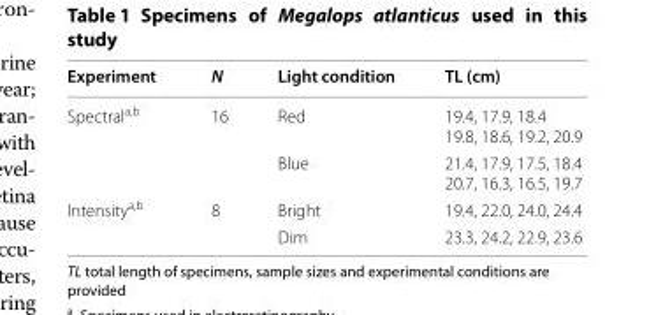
<table><thead><tr><td>Experiment</td><td>N</td><td>Light condition</td><td>TL (cm)</td></tr></thead><tbody><tr><td rowspan="2">Spectral<sup>a,b</sup></td><td rowspan="2">16</td><td>Red</td><td>19.4, 17.9, 18.4 19.8, 18.6, 19.2, 20.9</td></tr><tr><td>Blue</td><td>21.4, 17.9, 17.5, 18.4 20.7, 16.3, 16.5, 19.7</td></tr><tr><td rowspan="2">Intensity<sup>a,b</sup></td><td rowspan="2">8</td><td>Bright</td><td>19.4, 22.0, 24.0, 24.4</td></tr><tr><td>Dim</td><td>23.3, 24.2, 22.9, 23.6</td></tr></tbody></table>